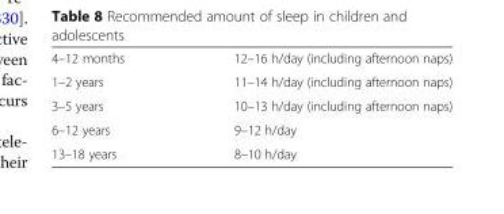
<table><tbody><tr><td>4–12 months</td><td>12–16 h/day (including afternoon naps)</td></tr><tr><td>1–2 years</td><td>11–14 h/day (including afternoon naps)</td></tr><tr><td>3–5 years</td><td>10–13 h/day (including afternoon naps)</td></tr><tr><td>6–12 years</td><td>9–12 h/day</td></tr><tr><td>13–18 years</td><td>8–10 h/day</td></tr></tbody></table>